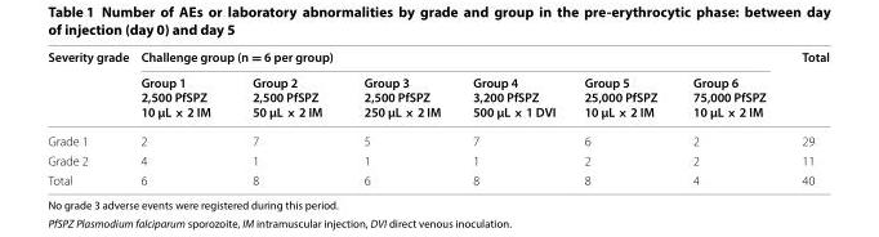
<table><thead><tr><td rowspan="2">Severity grade</td><td colspan="6">Challenge group (n = 6 per group)</td><td rowspan="2">Total</td></tr><tr><td>Group 1 2,500 PfSPZ 10 µL × 2 IM</td><td>Group 2 2,500 PfSPZ 50 µL × 2 IM</td><td>Group 3 2,500 PfSPZ 250 µL × 2 IM</td><td>Group 4 3,200 PfSPZ 500 µL × 1 DVI</td><td>Group 5 25,000 PfSPZ 10 µL × 2 IM</td><td>Group 6 75,000 PfSPZ 10 µL × 2 IM</td></tr></thead><tbody><tr><td>Grade 1</td><td>2</td><td>7</td><td>5</td><td>7</td><td>6</td><td>2</td><td>29</td></tr><tr><td>Grade 2</td><td>4</td><td>1</td><td>1</td><td>1</td><td>2</td><td>2</td><td>11</td></tr><tr><td>Total</td><td>6</td><td>8</td><td>6</td><td>8</td><td>8</td><td>4</td><td>40</td></tr></tbody></table>